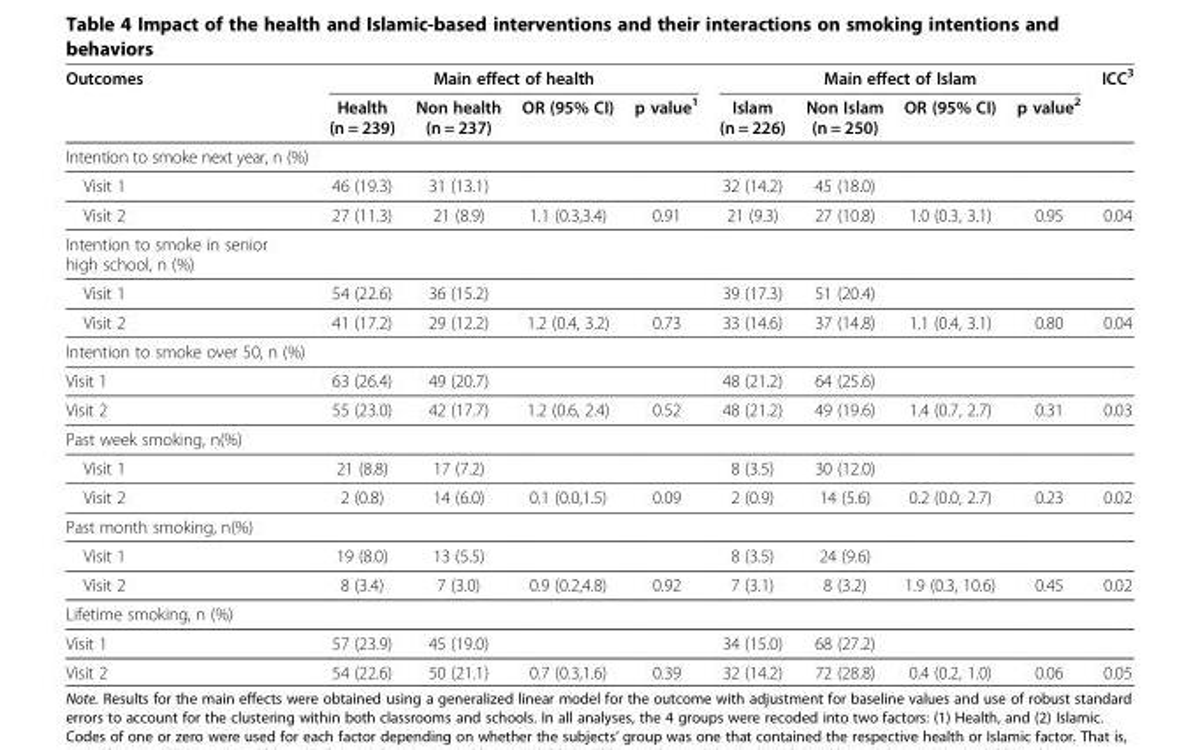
<table><thead><tr><td rowspan="2">Outcomes</td><td colspan="4">Main effect of health</td><td colspan="4">Main effect of Islam</td><td rowspan="2">ICC<sup>3</sup></td></tr><tr><td>Health (n = 239)</td><td>Non health (n = 237)</td><td>OR (95% CI)</td><td>p value<sup>1</sup></td><td>Islam (n = 226)</td><td>Non Islam (n = 250)</td><td>OR (95% CI)</td><td>p value<sup>2</sup></td></tr></thead><tbody><tr><td colspan="10">Intention to smoke next year, n (%)</td></tr><tr><td>Visit 1</td><td>46 (19.3)</td><td>31 (13.1)</td><td></td><td></td><td>32 (14.2)</td><td>45 (18.0)</td><td></td><td></td><td></td></tr><tr><td>Visit 2</td><td>27 (11.3)</td><td>21 (8.9)</td><td>1.1 (0.3,3.4)</td><td>0.91</td><td>21 (9.3)</td><td>27 (10.8)</td><td>1.0 (0.3, 3.1)</td><td>0.95</td><td>0.04</td></tr><tr><td colspan="10">Intention to smoke in senior high school, n (%)</td></tr><tr><td>Visit 1</td><td>54 (22.6)</td><td>36 (15.2)</td><td></td><td></td><td>39 (17.3)</td><td>51 (20.4)</td><td></td><td></td><td></td></tr><tr><td>Visit 2</td><td>41 (17.2)</td><td>29 (12.2)</td><td>1.2 (0.4, 3.2)</td><td>0.73</td><td>33 (14.6)</td><td>37 (14.8)</td><td>1.1 (0.4, 3.1)</td><td>0.80</td><td>0.04</td></tr><tr><td colspan="10">Intention to smoke over 50, n (%)</td></tr><tr><td>Visit 1</td><td>63 (26.4)</td><td>49 (20.7)</td><td></td><td></td><td>48 (21.2)</td><td>64 (25.6)</td><td></td><td></td><td></td></tr><tr><td>Visit 2</td><td>55 (23.0)</td><td>42 (17.7)</td><td>1.2 (0.6, 2.4)</td><td>0.52</td><td>48 (21.2)</td><td>49 (19.6)</td><td>1.4 (0.7, 2.7)</td><td>0.31</td><td>0.03</td></tr><tr><td colspan="10">Past week smoking, n(%)</td></tr><tr><td>Visit 1</td><td>21 (8.8)</td><td>17 (7.2)</td><td></td><td></td><td>8 (3.5)</td><td>30 (12.0)</td><td></td><td></td><td></td></tr><tr><td>Visit 2</td><td>2 (0.8)</td><td>14 (6.0)</td><td>0.1 (0.0,1.5)</td><td>0.09</td><td>2 (0.9)</td><td>14 (5.6)</td><td>0.2 (0.0, 2.7)</td><td>0.23</td><td>0.02</td></tr><tr><td colspan="10">Past month smoking, n(%)</td></tr><tr><td>Visit 1</td><td>19 (8.0)</td><td>13 (5.5)</td><td></td><td></td><td>8 (3.5)</td><td>24 (9.6)</td><td></td><td></td><td></td></tr><tr><td>Visit 2</td><td>8 (3.4)</td><td>7 (3.0)</td><td>0.9 (0.2,4.8)</td><td>0.92</td><td>7 (3.1)</td><td>8 (3.2)</td><td>1.9 (0.3, 10.6)</td><td>0.45</td><td>0.02</td></tr><tr><td colspan="10">Lifetime smoking, n (%)</td></tr><tr><td>Visit 1</td><td>57 (23.9)</td><td>45 (19.0)</td><td></td><td></td><td>34 (15.0)</td><td>68 (27.2)</td><td></td><td></td><td></td></tr><tr><td>Visit 2</td><td>54 (22.6)</td><td>50 (21.1)</td><td>0.7 (0.3,1.6)</td><td>0.39</td><td>32 (14.2)</td><td>72 (28.8)</td><td>0.4 (0.2, 1.0)</td><td>0.06</td><td>0.05</td></tr></tbody></table>